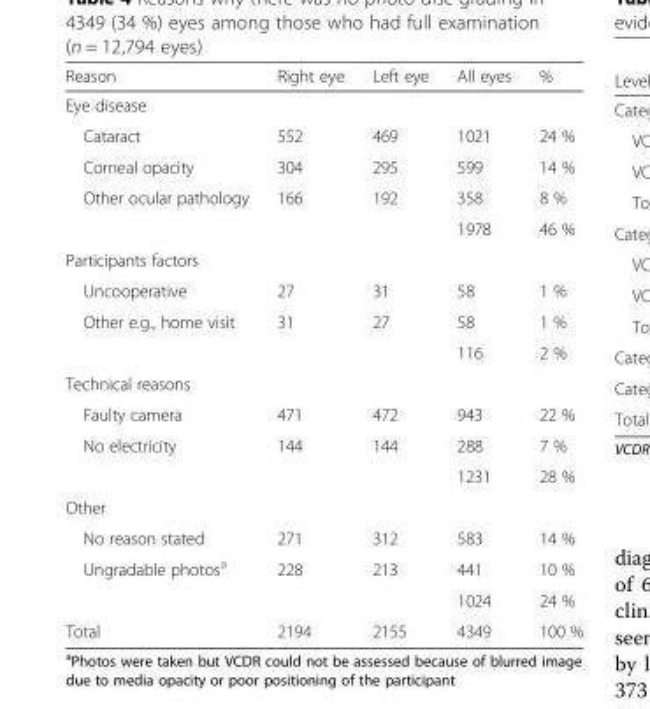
<table><thead><tr><td>Reason</td><td>Right eye</td><td>Left eye</td><td>All eyes</td><td>%</td></tr></thead><tbody><tr><td colspan="5">Eye disease</td></tr><tr><td>Cataract</td><td>552</td><td>469</td><td>1021</td><td>24 %</td></tr><tr><td>Corneal opacity</td><td>304</td><td>295</td><td>599</td><td>14 %</td></tr><tr><td rowspan="2">Other ocular pathology</td><td>166</td><td>192</td><td>358</td><td>8 %</td></tr><tr><td></td><td></td><td>1978</td><td>46 %</td></tr><tr><td colspan="5">Participants factors</td></tr><tr><td>Uncooperative</td><td>27</td><td>31</td><td>58</td><td>1 %</td></tr><tr><td rowspan="2">Other e.g., home visit</td><td>31</td><td>27</td><td>58</td><td>1 %</td></tr><tr><td></td><td></td><td>116</td><td>2 %</td></tr><tr><td colspan="5">Technical reasons</td></tr><tr><td>Faulty camera</td><td>471</td><td>472</td><td>943</td><td>22 %</td></tr><tr><td rowspan="2">No electricity</td><td>144</td><td>144</td><td>288</td><td>7 %</td></tr><tr><td></td><td></td><td>1231</td><td>28 %</td></tr><tr><td colspan="5">Other</td></tr><tr><td>No reason stated</td><td>271</td><td>312</td><td>583</td><td>14 %</td></tr><tr><td rowspan="2">Ungradable photos<sup>a</sup></td><td>228</td><td>213</td><td>441</td><td>10 %</td></tr><tr><td></td><td></td><td>1024</td><td>24 %</td></tr><tr><td>Total</td><td>2194</td><td>2155</td><td>4349</td><td>100 %</td></tr></tbody></table>